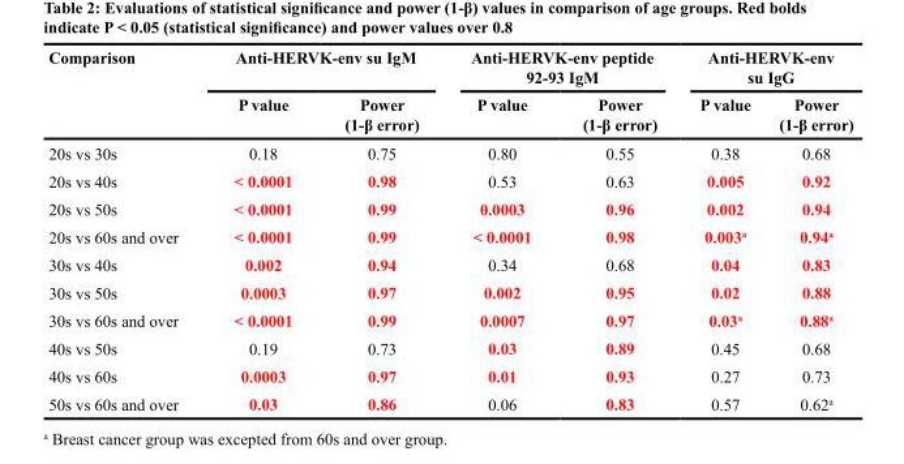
<table><thead><tr><td rowspan="2">Comparison</td><td colspan="2">Anti-HERVK-env su IgM</td><td colspan="2">Anti-HERVK-env peptide 92-93 IgM</td><td colspan="2">Anti-HERVK-env su IgG</td></tr><tr><td>P value</td><td>Power (1-β error)</td><td>P value</td><td>Power (1-β error)</td><td>P value</td><td>Power (1-β error)</td></tr></thead><tbody><tr><td>20s vs 30s</td><td>0.18</td><td>0.75</td><td>0.80</td><td>0.55</td><td>0.38</td><td>0.68</td></tr><tr><td>20s vs 40s</td><td>&lt; 0.0001</td><td>0.98</td><td>0.53</td><td>0.63</td><td>0.005</td><td>0.92</td></tr><tr><td>20s vs 50s</td><td>&lt; 0.0001</td><td>0.99</td><td>0.0003</td><td>0.96</td><td>0.002</td><td>0.94</td></tr><tr><td>20s vs 60s and over</td><td>&lt; 0.0001</td><td>0.99</td><td>&lt; 0.0001</td><td>0.98</td><td>0.003<sup>a</sup></td><td>0.94<sup>a</sup></td></tr><tr><td>30s vs 40s</td><td>0.002</td><td>0.94</td><td>0.34</td><td>0.68</td><td>0.04</td><td>0.83</td></tr><tr><td>30s vs 50s</td><td>0.0003</td><td>0.97</td><td>0.002</td><td>0.95</td><td>0.02</td><td>0.88</td></tr><tr><td>30s vs 60s and over</td><td>&lt; 0.0001</td><td>0.99</td><td>0.0007</td><td>0.97</td><td>0.03<sup>a</sup></td><td>0.88<sup>a</sup></td></tr><tr><td>40s vs 50s</td><td>0.19</td><td>0.73</td><td>0.03</td><td>0.89</td><td>0.45</td><td>0.68</td></tr><tr><td>40s vs 60s</td><td>0.0003</td><td>0.97</td><td>0.01</td><td>0.93</td><td>0.27</td><td>0.73</td></tr><tr><td>50s vs 60s and over</td><td>0.03</td><td>0.86</td><td>0.06</td><td>0.83</td><td>0.57</td><td>0.62<sup>a</sup></td></tr></tbody></table>